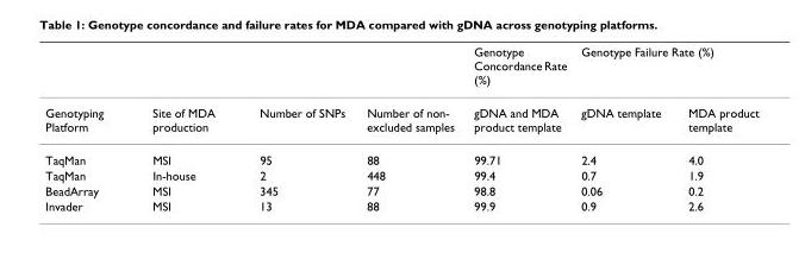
<table><thead><tr><td rowspan="2">Genotyping Platform</td><td rowspan="2">Site of MDA production</td><td rowspan="2">Number of SNPs</td><td rowspan="2">Number of non- excluded samples</td><td rowspan="2">Genotype Concordance Rate (%) gDNA and MDA product template</td><td colspan="2">Genotype Failure Rate (%)</td></tr><tr><td>gDNA template</td><td>MDA product template</td></tr></thead><tbody><tr><td>TaqMan</td><td>MSI</td><td>95</td><td>88</td><td>99.71</td><td>2.4</td><td>4.0</td></tr><tr><td>TaqMan</td><td>In-house</td><td>2</td><td>448</td><td>99.4</td><td>0.7</td><td>1.9</td></tr><tr><td>BeadArray</td><td>MSI</td><td>345</td><td>77</td><td>98.8</td><td>0.06</td><td>0.2</td></tr><tr><td>Invader</td><td>MSI</td><td>13</td><td>88</td><td>99.9</td><td>0.9</td><td>2.6</td></tr></tbody></table>